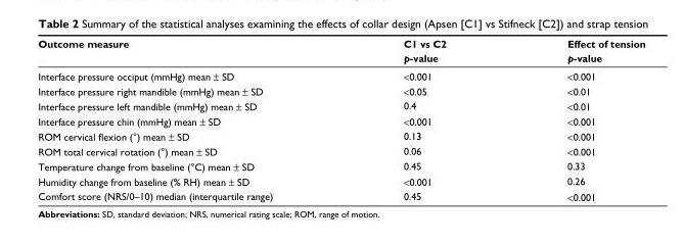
<table><thead><tr><td>Outcome measure</td><td>C1 vs C2 p-value</td><td>Effect of tension p-value</td></tr></thead><tbody><tr><td>Interface pressure occiput (mmHg) mean ± SD</td><td>&lt;0.001</td><td>&lt;0.001</td></tr><tr><td>Interface pressure right mandible (mmHg) mean ± SD</td><td>&lt;0.05</td><td>&lt;0.01</td></tr><tr><td>Interface pressure left mandible (mmHg) mean ± SD</td><td>0.4</td><td>&lt;0.01</td></tr><tr><td>Interface pressure chin (mmHg) mean ± SD</td><td>&lt;0.001</td><td>&lt;0.001</td></tr><tr><td>ROM cervical flexion (°) mean ± SD</td><td>0.13</td><td>&lt;0.001</td></tr><tr><td>ROM total cervical rotation (°) mean ± SD</td><td>0.06</td><td>&lt;0.001</td></tr><tr><td>Temperature change from baseline (°C) mean ± SD</td><td>0.45</td><td>0.33</td></tr><tr><td>Humidity change from baseline (% RH) mean ± SD</td><td>&lt;0.001</td><td>0.26</td></tr><tr><td>Comfort score (NRS/0–10) median (interquartile range)</td><td>0.45</td><td>&lt;0.001</td></tr></tbody></table>